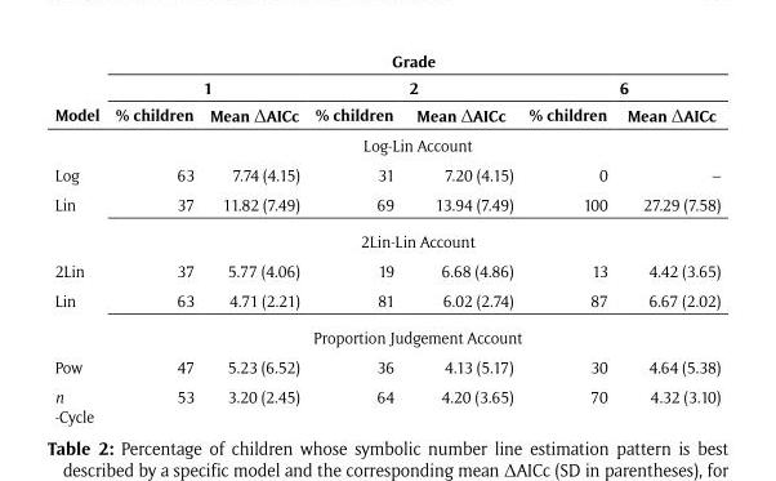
<table><thead><tr><td rowspan="3">Model</td><td colspan="6">Grade</td></tr><tr><td colspan="2">1</td><td colspan="2">2</td><td colspan="2">6</td></tr><tr><td>% children</td><td>Mean ΔAICc</td><td>% children</td><td>Mean ΔAICc</td><td>% children</td><td>Mean ΔAICc</td></tr></thead><tbody><tr><td colspan="7">Log-Lin Account</td></tr><tr><td>Log</td><td>63</td><td>7.74 (4.15)</td><td>31</td><td>7.20 (4.15)</td><td>0</td><td>–</td></tr><tr><td>Lin</td><td>37</td><td>11.82 (7.49)</td><td>69</td><td>13.94 (7.49)</td><td>100</td><td>27.29 (7.58)</td></tr><tr><td colspan="7">2Lin-Lin Account</td></tr><tr><td>2Lin</td><td>37</td><td>5.77 (4.06)</td><td>19</td><td>6.68 (4.86)</td><td>13</td><td>4.42 (3.65)</td></tr><tr><td>Lin</td><td>63</td><td>4.71 (2.21)</td><td>81</td><td>6.02 (2.74)</td><td>87</td><td>6.67 (2.02)</td></tr><tr><td colspan="7">Proportion Judgement Account</td></tr><tr><td>Pow</td><td>47</td><td>5.23 (6.52)</td><td>36</td><td>4.13 (5.17)</td><td>30</td><td>4.64 (5.38)</td></tr><tr><td>n -Cycle</td><td>53</td><td>3.20 (2.45)</td><td>64</td><td>4.20 (3.65)</td><td>70</td><td>4.32 (3.10)</td></tr></tbody></table>